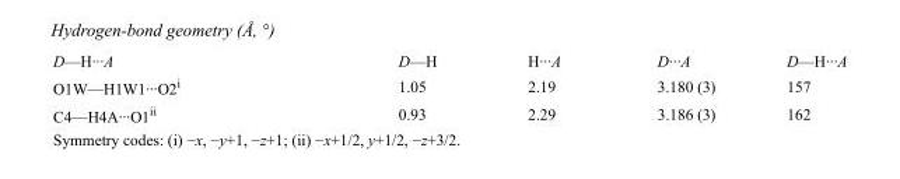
<table><tbody><tr><td>D—H···A</td><td>D—H</td><td>H···A</td><td>D···A</td><td>D—H···A</td></tr><tr><td>O1W—H1W1···O2<sup>i</sup></td><td>1.05</td><td>2.19</td><td>3.180 (3)</td><td>157</td></tr><tr><td>C4—H4A···O1<sup>ii</sup></td><td>0.93</td><td>2.29</td><td>3.186 (3)</td><td>162</td></tr></tbody></table>